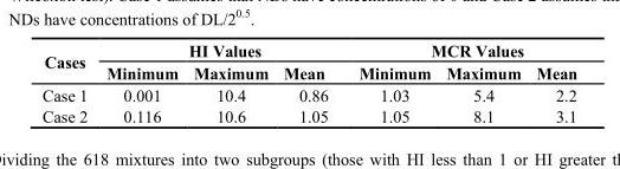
<table><thead><tr><td rowspan="2">Cases</td><td colspan="3">HI Values</td><td colspan="3">MCR Values</td></tr><tr><td>Minimum</td><td>Maximum</td><td>Mean</td><td>Minimum</td><td>Maximum</td><td>Mean</td></tr></thead><tbody><tr><td>Case 1</td><td>0.001</td><td>10.4</td><td>0.86</td><td>1.03</td><td>5.4</td><td>2.2</td></tr><tr><td>Case 2</td><td>0.116</td><td>10.6</td><td>1.05</td><td>1.05</td><td>8.1</td><td>3.1</td></tr></tbody></table>